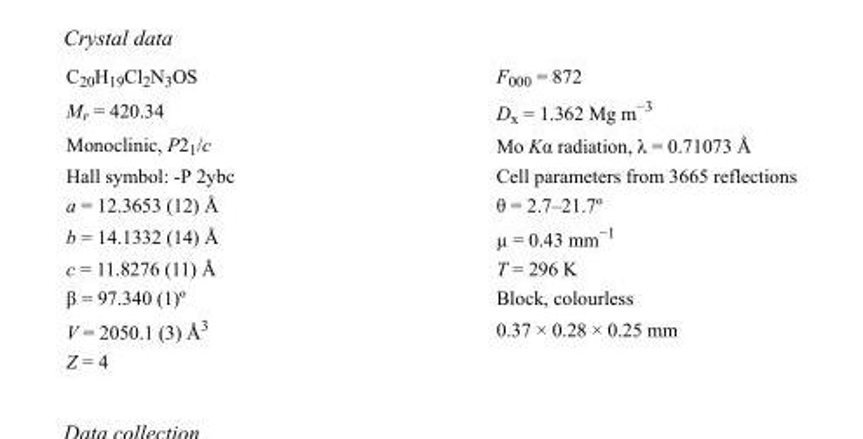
<table><tbody><tr><td>C<sub>20</sub>H<sub>19</sub>Cl<sub>2</sub>N<sub>3</sub>OS</td><td>F000 = 872</td></tr><tr><td>M<sub>r</sub> = 420.34</td><td>D<sub>x</sub> = 1.362 Mg m<sup>−3</sup></td></tr><tr><td>Monoclinic, P2<sub>1</sub>/c</td><td>Mo Kα radiation, λ = 0.71073 Å</td></tr><tr><td>Hall symbol: -P 2ybc</td><td>Cell parameters from 3665 reflections</td></tr><tr><td>a = 12.3653 (12) Å</td><td>θ = 2.7–21.7º</td></tr><tr><td>b = 14.1332 (14) Å</td><td>µ = 0.43 mm<sup>−1</sup></td></tr><tr><td>c = 11.8276 (11) Å</td><td>T = 296 K</td></tr><tr><td>β = 97.340 (1)º</td><td>Block, colourless</td></tr><tr><td>V = 2050.1 (3) Å<sup>3</sup></td><td>0.37 × 0.28 × 0.25 mm</td></tr><tr><td>Z = 4</td><td></td></tr></tbody></table>